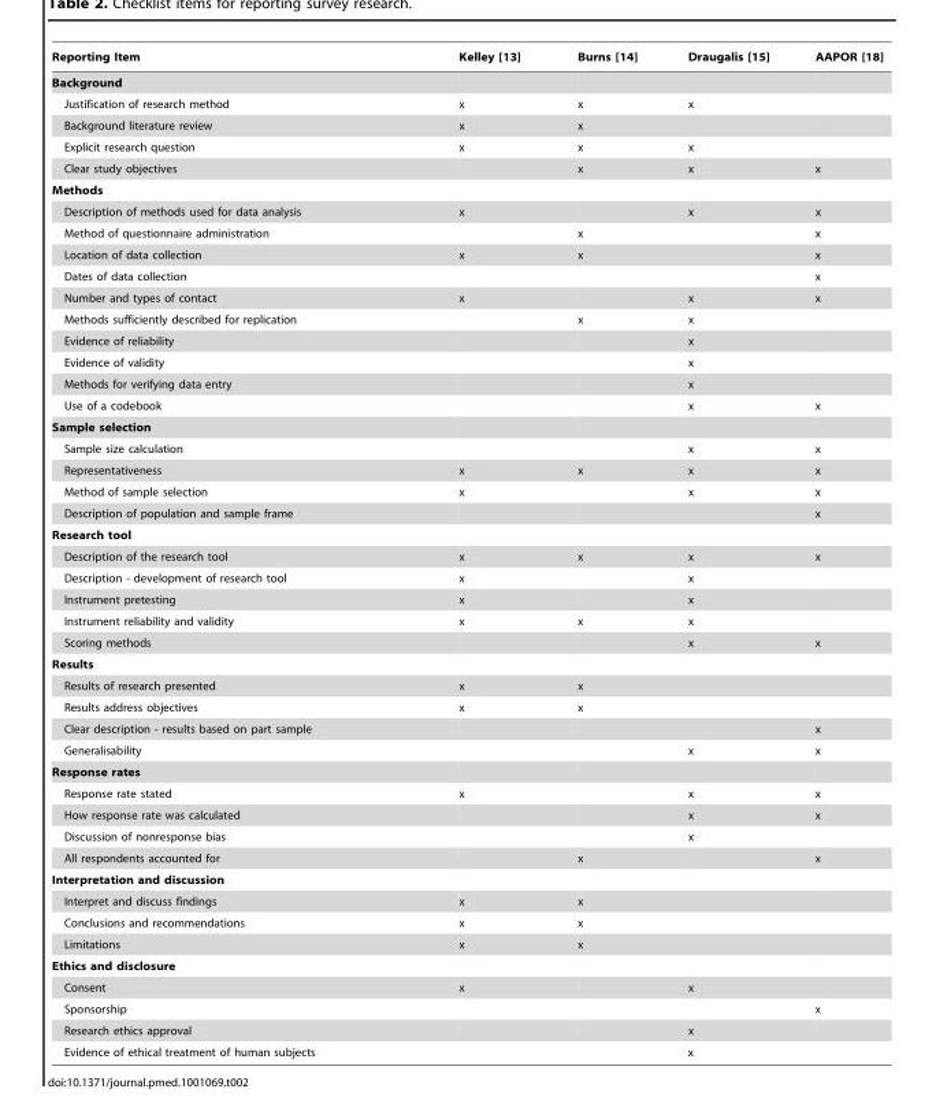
<table><thead><tr><td>Reporting Item</td><td>Kelley [13]</td><td>Burns [14]</td><td>Draugalis [15]</td><td>AAPOR [18]</td></tr></thead><tbody><tr><td colspan="5">Background</td></tr><tr><td>Justification of research method</td><td>x</td><td>x</td><td>x</td><td></td></tr><tr><td>Background literature review</td><td>x</td><td>x</td><td></td><td></td></tr><tr><td>Explicit research question</td><td>x</td><td>x</td><td>x</td><td></td></tr><tr><td>Clear study objectives</td><td></td><td>x</td><td>x</td><td>x</td></tr><tr><td colspan="5">Methods</td></tr><tr><td>Description of methods used for data analysis</td><td>x</td><td></td><td>x</td><td>x</td></tr><tr><td>Method of questionnaire administration</td><td></td><td>x</td><td></td><td>x</td></tr><tr><td>Location of data collection</td><td>x</td><td>x</td><td></td><td>x</td></tr><tr><td>Dates of data collection</td><td></td><td></td><td></td><td>x</td></tr><tr><td>Number and types of contact</td><td>x</td><td></td><td>x</td><td>x</td></tr><tr><td>Methods sufficiently described for replication</td><td></td><td>x</td><td>x</td><td></td></tr><tr><td>Evidence of reliability</td><td></td><td></td><td>x</td><td></td></tr><tr><td>Evidence of validity</td><td></td><td></td><td>x</td><td></td></tr><tr><td>Methods for verifying data entry</td><td></td><td></td><td>x</td><td></td></tr><tr><td>Use of a codebook</td><td></td><td></td><td>x</td><td>x</td></tr><tr><td colspan="5">Sample selection</td></tr><tr><td>Sample size calculation</td><td></td><td></td><td>x</td><td>x</td></tr><tr><td>Representativeness</td><td>x</td><td>x</td><td>x</td><td>x</td></tr><tr><td>Method of sample selection</td><td>x</td><td></td><td>x</td><td>x</td></tr><tr><td>Description of population and sample frame</td><td></td><td></td><td></td><td>x</td></tr><tr><td colspan="5">Research tool</td></tr><tr><td>Description of the research tool</td><td>x</td><td>x</td><td>x</td><td>x</td></tr><tr><td>Description - development of research tool</td><td>x</td><td></td><td>x</td><td></td></tr><tr><td>Instrument pretesting</td><td>x</td><td></td><td>x</td><td></td></tr><tr><td>Instrument reliability and validity</td><td>x</td><td>x</td><td>x</td><td></td></tr><tr><td>Scoring methods</td><td></td><td></td><td>x</td><td>x</td></tr><tr><td colspan="5">Results</td></tr><tr><td>Results of research presented</td><td>x</td><td>x</td><td></td><td></td></tr><tr><td>Results address objectives</td><td>x</td><td>x</td><td></td><td></td></tr><tr><td>Clear description - results based on part sample</td><td></td><td></td><td></td><td>x</td></tr><tr><td>Generalisability</td><td></td><td></td><td>x</td><td>x</td></tr><tr><td colspan="5">Response rates</td></tr><tr><td>Response rate stated</td><td>x</td><td></td><td>x</td><td>x</td></tr><tr><td>How response rate was calculated</td><td></td><td></td><td>x</td><td>x</td></tr><tr><td>Discussion of nonresponse bias</td><td></td><td></td><td>x</td><td></td></tr><tr><td>All respondents accounted for</td><td></td><td>x</td><td></td><td>x</td></tr><tr><td colspan="5">Interpretation and discussion</td></tr><tr><td>Interpret and discuss findings</td><td>x</td><td>x</td><td></td><td></td></tr><tr><td>Conclusions and recommendations</td><td>x</td><td>x</td><td></td><td></td></tr><tr><td>Limitations</td><td>x</td><td>x</td><td></td><td></td></tr><tr><td colspan="5">Ethics and disclosure</td></tr><tr><td>Consent</td><td>x</td><td></td><td>x</td><td></td></tr><tr><td>Sponsorship</td><td></td><td></td><td></td><td>x</td></tr><tr><td>Research ethics approval</td><td></td><td></td><td>x</td><td></td></tr><tr><td>Evidence of ethical treatment of human subjects</td><td></td><td></td><td>x</td><td></td></tr></tbody></table>